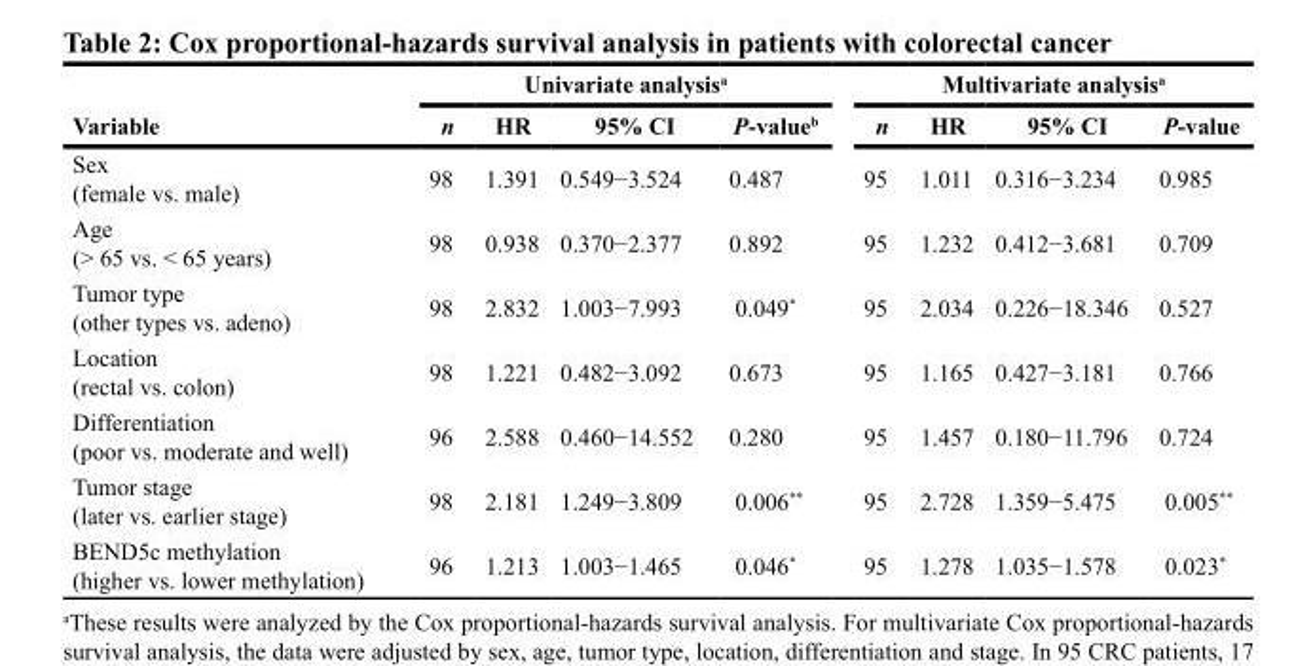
<table><thead><tr><td rowspan="2">Variable</td><td colspan="4">Univariate analysis<sup>a</sup></td><td colspan="4">Multivariate analysis<sup>a</sup></td></tr><tr><td>n</td><td>HR</td><td>95% CI</td><td>P-value<sup>b</sup></td><td>n</td><td>HR</td><td>95% CI</td><td>P-value</td></tr></thead><tbody><tr><td>Sex (female vs. male)</td><td>98</td><td>1.391</td><td>0.549−3.524</td><td>0.487</td><td>95</td><td>1.011</td><td>0.316−3.234</td><td>0.985</td></tr><tr><td>Age (&gt; 65 vs. &lt; 65 years)</td><td>98</td><td>0.938</td><td>0.370−2.377</td><td>0.892</td><td>95</td><td>1.232</td><td>0.412−3.681</td><td>0.709</td></tr><tr><td>Tumor type (other types vs. adeno)</td><td>98</td><td>2.832</td><td>1.003−7.993</td><td>0.049*</td><td>95</td><td>2.034</td><td>0.226−18.346</td><td>0.527</td></tr><tr><td>Location (rectal vs. colon)</td><td>98</td><td>1.221</td><td>0.482−3.092</td><td>0.673</td><td>95</td><td>1.165</td><td>0.427−3.181</td><td>0.766</td></tr><tr><td>Differentiation (poor vs. moderate and well)</td><td>96</td><td>2.588</td><td>0.460−14.552</td><td>0.280</td><td>95</td><td>1.457</td><td>0.180−11.796</td><td>0.724</td></tr><tr><td>Tumor stage (later vs. earlier stage)</td><td>98</td><td>2.181</td><td>1.249−3.809</td><td>0.006**</td><td>95</td><td>2.728</td><td>1.359−5.475</td><td>0.005**</td></tr><tr><td>BEND5c methylation (higher vs. lower methylation)</td><td>96</td><td>1.213</td><td>1.003−1.465</td><td>0.046*</td><td>95</td><td>1.278</td><td>1.035−1.578</td><td>0.023*</td></tr></tbody></table>